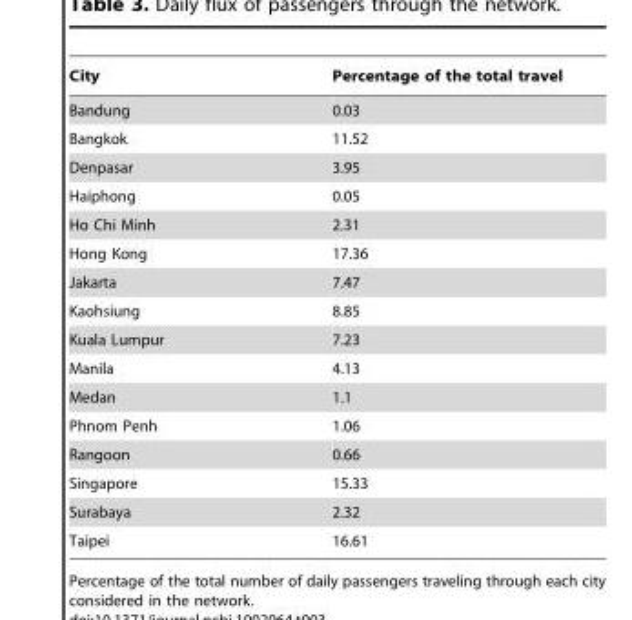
<table><thead><tr><td>City</td><td>Percentage of the total travel</td></tr></thead><tbody><tr><td>Bandung</td><td>0.03</td></tr><tr><td>Bangkok</td><td>11.52</td></tr><tr><td>Denpasar</td><td>3.95</td></tr><tr><td>Haiphong</td><td>0.05</td></tr><tr><td>Ho Chi Minh</td><td>2.31</td></tr><tr><td>Hong Kong</td><td>17.36</td></tr><tr><td>Jakarta</td><td>7.47</td></tr><tr><td>Kaohsiung</td><td>8.85</td></tr><tr><td>Kuala Lumpur</td><td>7.23</td></tr><tr><td>Manila</td><td>4.13</td></tr><tr><td>Medan</td><td>1.1</td></tr><tr><td>Phnom Penh</td><td>1.06</td></tr><tr><td>Rangoon</td><td>0.66</td></tr><tr><td>Singapore</td><td>15.33</td></tr><tr><td>Surabaya</td><td>2.32</td></tr><tr><td>Taipei</td><td>16.61</td></tr></tbody></table>